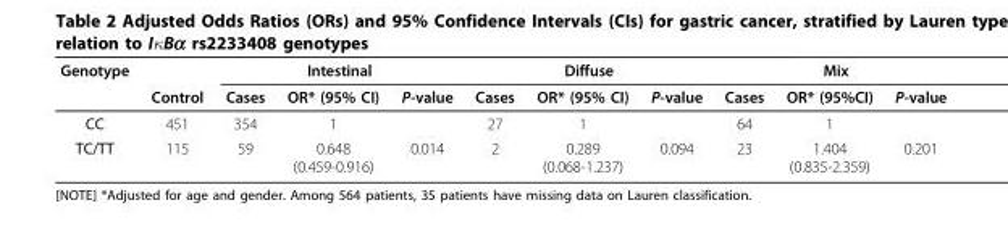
<table><thead><tr><td rowspan="2">Genotype</td><td rowspan="2">Control</td><td colspan="3">Intestinal</td><td colspan="3">Diffuse</td><td colspan="3">Mix</td></tr><tr><td>Cases</td><td>OR* (95% CI)</td><td>P-value</td><td>Cases</td><td>OR* (95% CI)</td><td>P-value</td><td>Cases</td><td>OR* (95%CI)</td><td>P-value</td></tr></thead><tbody><tr><td>CC</td><td>451</td><td>354</td><td>1</td><td></td><td>27</td><td>1</td><td></td><td>64</td><td>1</td><td></td></tr><tr><td>TC/TT</td><td>115</td><td>59</td><td>0.648 (0.459-0.916)</td><td>0.014</td><td>2</td><td>0.289 (0.068-1.237)</td><td>0.094</td><td>23</td><td>1.404 (0.835-2.359)</td><td>0.201</td></tr></tbody></table>